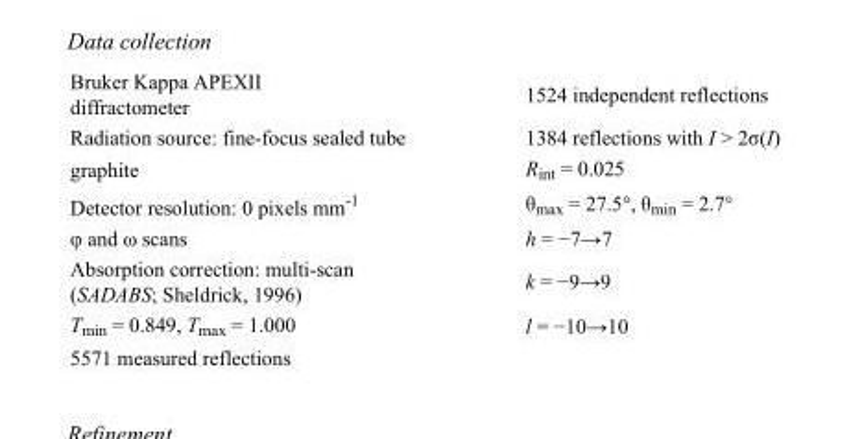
<table><tbody><tr><td>Bruker Kappa APEXII diffractometer</td><td>1524 independent reflections</td></tr><tr><td>Radiation source: fine-focus sealed tube</td><td>1384 reflections with I &gt; 2σ(I)</td></tr><tr><td>graphite</td><td>R<sub>int</sub> = 0.025</td></tr><tr><td>Detector resolution: 0 pixels mm<sup>-1</sup></td><td>θ<sub>max</sub> = 27.5°, θ<sub>min</sub> = 2.7°</td></tr><tr><td>φ and ω scans</td><td>h = −7→7</td></tr><tr><td>Absorption correction: multi-scan (SADABS; Sheldrick, 1996)</td><td>k = −9→9</td></tr><tr><td>T<sub>min</sub> = 0.849, T<sub>max</sub> = 1.000</td><td>l = −10→10</td></tr><tr><td>5571 measured reflections</td><td></td></tr></tbody></table>